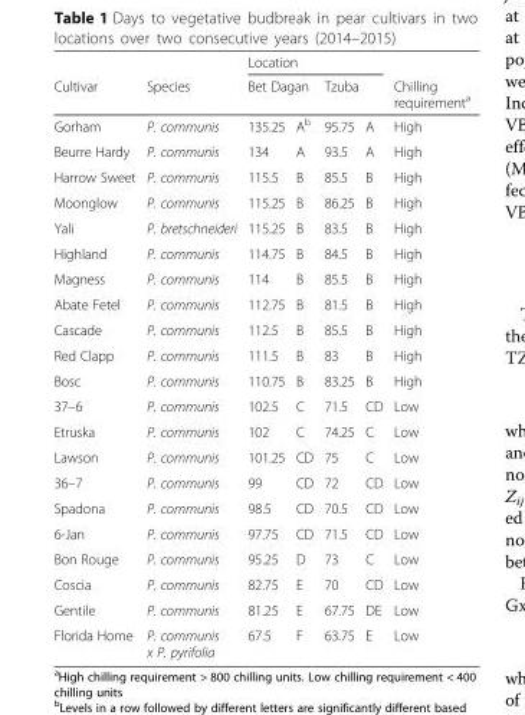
<table><thead><tr><td rowspan="3">Cultivar Gorham</td><td rowspan="3">Species P. communis</td><td colspan="4">Location</td><td rowspan="3">Chilling requirement<sup>a</sup> High</td></tr><tr><td colspan="2">Bet Dagan</td><td colspan="2">Tzuba</td></tr><tr><td>135.25</td><td>A<sup>b</sup></td><td>95.75</td><td>A</td></tr></thead><tbody><tr><td>Beurre Hardy</td><td>P. communis</td><td>134</td><td>A</td><td>93.5</td><td>A</td><td>High</td></tr><tr><td>Harrow Sweet</td><td>P. communis</td><td>115.5</td><td>B</td><td>85.5</td><td>B</td><td>High</td></tr><tr><td>Moonglow</td><td>P. communis</td><td>115.25</td><td>B</td><td>86.25</td><td>B</td><td>High</td></tr><tr><td>Yali</td><td>P. bretschneideri</td><td>115.25</td><td>B</td><td>83.5</td><td>B</td><td>High</td></tr><tr><td>Highland</td><td>P. communis</td><td>114.75</td><td>B</td><td>84.5</td><td>B</td><td>High</td></tr><tr><td>Magness</td><td>P. communis</td><td>114</td><td>B</td><td>85.5</td><td>B</td><td>High</td></tr><tr><td>Abate Fetel</td><td>P. communis</td><td>112.75</td><td>B</td><td>81.5</td><td>B</td><td>High</td></tr><tr><td>Cascade</td><td>P. communis</td><td>112.5</td><td>B</td><td>85.5</td><td>B</td><td>High</td></tr><tr><td>Red Clapp</td><td>P. communis</td><td>111.5</td><td>B</td><td>83</td><td>B</td><td>High</td></tr><tr><td>Bosc</td><td>P. communis</td><td>110.75</td><td>B</td><td>83.25</td><td>B</td><td>High</td></tr><tr><td>37–6</td><td>P. communis</td><td>102.5</td><td>C</td><td>71.5</td><td>CD</td><td>Low</td></tr><tr><td>Etruska</td><td>P. communis</td><td>102</td><td>C</td><td>74.25</td><td>C</td><td>Low</td></tr><tr><td>Lawson</td><td>P. communis</td><td>101.25</td><td>CD</td><td>75</td><td>C</td><td>Low</td></tr><tr><td>36–7</td><td>P. communis</td><td>99</td><td>CD</td><td>72</td><td>CD</td><td>Low</td></tr><tr><td>Spadona</td><td>P. communis</td><td>98.5</td><td>CD</td><td>70.5</td><td>CD</td><td>Low</td></tr><tr><td>6-Jan</td><td>P. communis</td><td>97.75</td><td>CD</td><td>71.5</td><td>CD</td><td>Low</td></tr><tr><td>Bon Rouge</td><td>P. communis</td><td>95.25</td><td>D</td><td>73</td><td>C</td><td>Low</td></tr><tr><td>Coscia</td><td>P. communis</td><td>82.75</td><td>E</td><td>70</td><td>CD</td><td>Low</td></tr><tr><td>Gentile</td><td>P. communis</td><td>81.25</td><td>E</td><td>67.75</td><td>DE</td><td>Low</td></tr><tr><td>Florida Home</td><td>P. communis x P. pyrifolia</td><td>67.5</td><td>F</td><td>63.75</td><td>E</td><td>Low</td></tr></tbody></table>